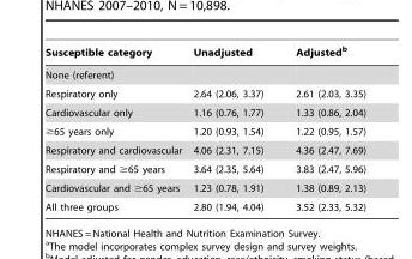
<table><thead><tr><td>Susceptible category</td><td>Unadjusted</td><td>Adjusted<sup>b</sup></td></tr></thead><tbody><tr><td colspan="3">None (referent)</td></tr><tr><td>Respiratory only</td><td>2.64 (2.06, 3.37)</td><td>2.61 (2.03, 3.35)</td></tr><tr><td>Cardiovascular only</td><td>1.16 (0.76, 1.77)</td><td>1.33 (0.86, 2.04)</td></tr><tr><td>≥65 years only</td><td>1.20 (0.93, 1.54)</td><td>1.22 (0.95, 1.57)</td></tr><tr><td>Respiratory and cardiovascular</td><td>4.06 (2.31, 7.15)</td><td>4.36 (2.47, 7.69)</td></tr><tr><td>Respiratory and ≥65 years</td><td>3.64 (2.35, 5.64)</td><td>3.83 (2.47, 5.96)</td></tr><tr><td>Cardiovascular and ≥65 years</td><td>1.23 (0.78, 1.91)</td><td>1.38 (0.89, 2.13)</td></tr><tr><td>All three groups</td><td>2.80 (1.94, 4.04)</td><td>3.52 (2.33, 5.32)</td></tr></tbody></table>